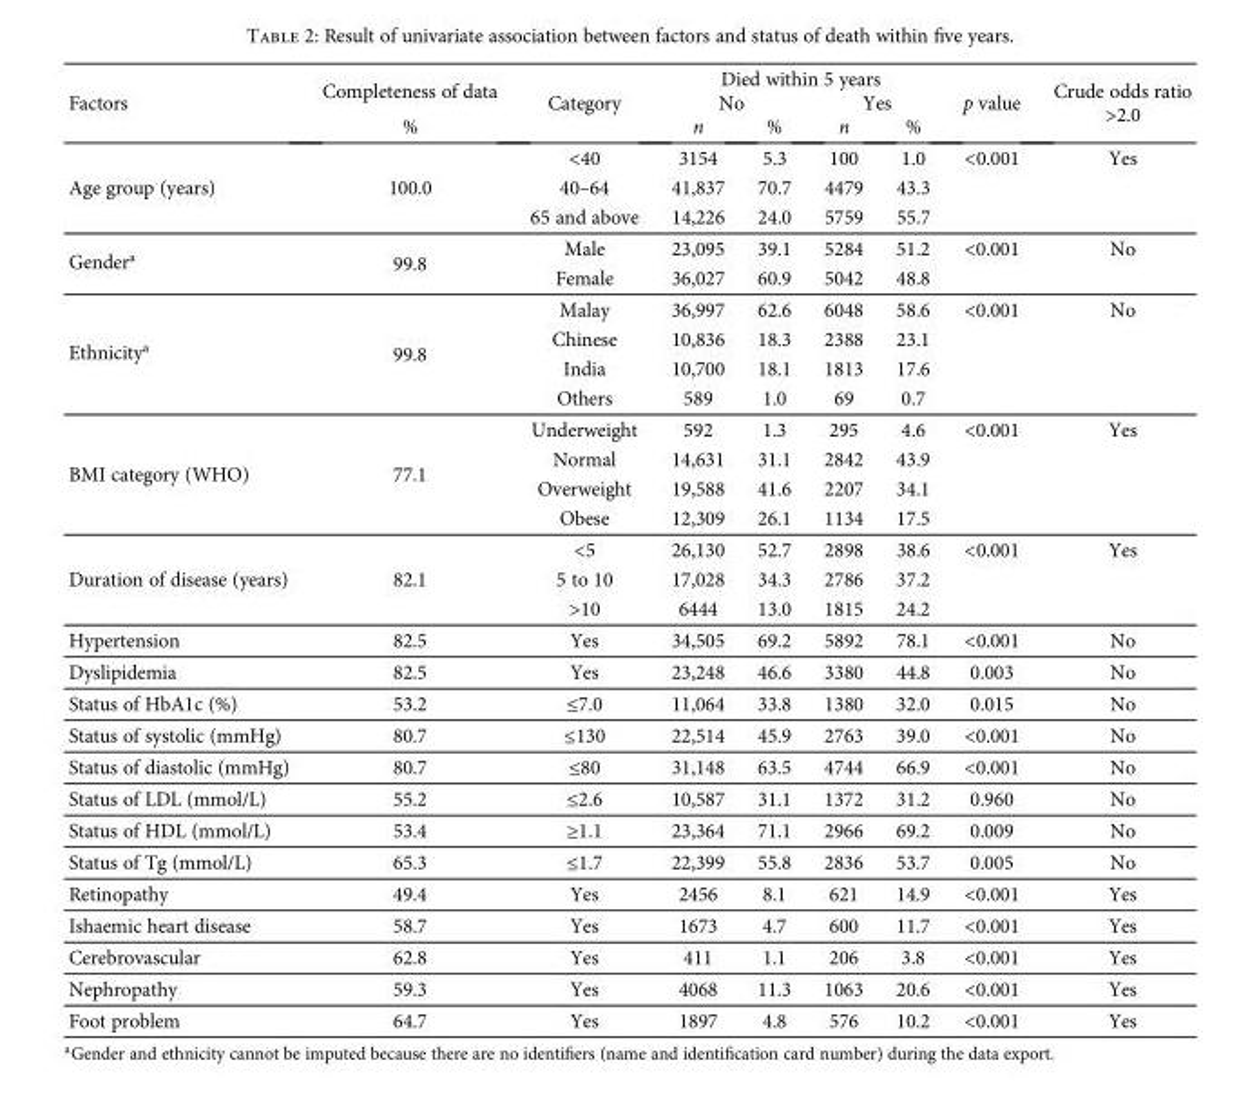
<table><thead><tr><td rowspan="3">Factors</td><td rowspan="3">Completeness of data %</td><td rowspan="3">Category</td><td colspan="4">Died within 5 years</td><td rowspan="3">p value</td><td rowspan="3">Crude odds ratio &gt;2.0</td></tr><tr><td colspan="2">No</td><td colspan="2">Yes</td></tr><tr><td>n</td><td>%</td><td>n</td><td>%</td></tr></thead><tbody><tr><td rowspan="3">Age group (years)</td><td rowspan="3">100.0</td><td>&lt;40</td><td>3154</td><td>5.3</td><td>100</td><td>1.0</td><td>&lt;0.001</td><td>Yes</td></tr><tr><td>40–64</td><td>41,837</td><td>70.7</td><td>4479</td><td>43.3</td><td></td><td></td></tr><tr><td>65 and above</td><td>14,226</td><td>24.0</td><td>5759</td><td>55.7</td><td></td><td></td></tr><tr><td rowspan="2">Gender<sup>a</sup></td><td rowspan="2">99.8</td><td>Male</td><td>23,095</td><td>39.1</td><td>5284</td><td>51.2</td><td>&lt;0.001</td><td>No</td></tr><tr><td>Female</td><td>36,027</td><td>60.9</td><td>5042</td><td>48.8</td><td></td><td></td></tr><tr><td rowspan="4">Ethnicity<sup>a</sup></td><td rowspan="4">99.8</td><td>Malay</td><td>36,997</td><td>62.6</td><td>6048</td><td>58.6</td><td>&lt;0.001</td><td>No</td></tr><tr><td>Chinese</td><td>10,836</td><td>18.3</td><td>2388</td><td>23.1</td><td></td><td></td></tr><tr><td>India</td><td>10,700</td><td>18.1</td><td>1813</td><td>17.6</td><td></td><td></td></tr><tr><td>Others</td><td>589</td><td>1.0</td><td>69</td><td>0.7</td><td></td><td></td></tr><tr><td rowspan="4">BMI category (WHO)</td><td rowspan="4">77.1</td><td>Underweight</td><td>592</td><td>1.3</td><td>295</td><td>4.6</td><td>&lt;0.001</td><td>Yes</td></tr><tr><td>Normal</td><td>14,631</td><td>31.1</td><td>2842</td><td>43.9</td><td></td><td></td></tr><tr><td>Overweight</td><td>19,588</td><td>41.6</td><td>2207</td><td>34.1</td><td></td><td></td></tr><tr><td>Obese</td><td>12,309</td><td>26.1</td><td>1134</td><td>17.5</td><td></td><td></td></tr><tr><td rowspan="3">Duration of disease (years)</td><td rowspan="3">82.1</td><td>&lt;5</td><td>26,130</td><td>52.7</td><td>2898</td><td>38.6</td><td>&lt;0.001</td><td>Yes</td></tr><tr><td>5 to 10</td><td>17,028</td><td>34.3</td><td>2786</td><td>37.2</td><td></td><td></td></tr><tr><td>&gt;10</td><td>6444</td><td>13.0</td><td>1815</td><td>24.2</td><td></td><td></td></tr><tr><td>Hypertension</td><td>82.5</td><td>Yes</td><td>34,505</td><td>69.2</td><td>5892</td><td>78.1</td><td>&lt;0.001</td><td>No</td></tr><tr><td>Dyslipidemia</td><td>82.5</td><td>Yes</td><td>23,248</td><td>46.6</td><td>3380</td><td>44.8</td><td>0.003</td><td>No</td></tr><tr><td>Status of HbA1c (%)</td><td>53.2</td><td>≤7.0</td><td>11,064</td><td>33.8</td><td>1380</td><td>32.0</td><td>0.015</td><td>No</td></tr><tr><td>Status of systolic (mmHg)</td><td>80.7</td><td>≤130</td><td>22,514</td><td>45.9</td><td>2763</td><td>39.0</td><td>&lt;0.001</td><td>No</td></tr><tr><td>Status of diastolic (mmHg)</td><td>80.7</td><td>≤80</td><td>31,148</td><td>63.5</td><td>4744</td><td>66.9</td><td>&lt;0.001</td><td>No</td></tr><tr><td>Status of LDL (mmol/L)</td><td>55.2</td><td>≤2.6</td><td>10,587</td><td>31.1</td><td>1372</td><td>31.2</td><td>0.960</td><td>No</td></tr><tr><td>Status of HDL (mmol/L)</td><td>53.4</td><td>≥1.1</td><td>23,364</td><td>71.1</td><td>2966</td><td>69.2</td><td>0.009</td><td>No</td></tr><tr><td>Status of Tg (mmol/L)</td><td>65.3</td><td>≤1.7</td><td>22,399</td><td>55.8</td><td>2836</td><td>53.7</td><td>0.005</td><td>No</td></tr><tr><td>Retinopathy</td><td>49.4</td><td>Yes</td><td>2456</td><td>8.1</td><td>621</td><td>14.9</td><td>&lt;0.001</td><td>Yes</td></tr><tr><td>Ishaemic heart disease</td><td>58.7</td><td>Yes</td><td>1673</td><td>4.7</td><td>600</td><td>11.7</td><td>&lt;0.001</td><td>Yes</td></tr><tr><td>Cerebrovascular</td><td>62.8</td><td>Yes</td><td>411</td><td>1.1</td><td>206</td><td>3.8</td><td>&lt;0.001</td><td>Yes</td></tr><tr><td>Nephropathy</td><td>59.3</td><td>Yes</td><td>4068</td><td>11.3</td><td>1063</td><td>20.6</td><td>&lt;0.001</td><td>Yes</td></tr><tr><td>Foot problem</td><td>64.7</td><td>Yes</td><td>1897</td><td>4.8</td><td>576</td><td>10.2</td><td>&lt;0.001</td><td>Yes</td></tr></tbody></table>